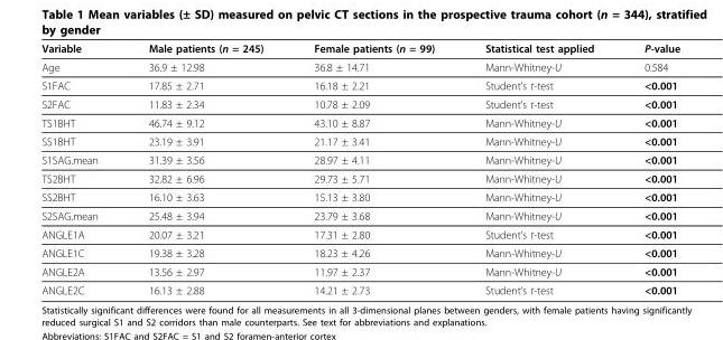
<table><thead><tr><td>Variable</td><td>Male patients (n = 245)</td><td>Female patients (n = 99)</td><td>Statistical test applied</td><td>P-value</td></tr></thead><tbody><tr><td>Age</td><td>36.9 ± 12.98</td><td>36.8 ± 14.71</td><td>Mann-Whitney-U</td><td>0.584</td></tr><tr><td>S1FAC</td><td>17.85 ± 2.71</td><td>16.18 ± 2.21</td><td>Student’s t-test</td><td>&lt;0.001</td></tr><tr><td>S2FAC</td><td>11.83 ± 2.34</td><td>10.78 ± 2.09</td><td>Student’s t-test</td><td>&lt;0.001</td></tr><tr><td>TS1BHT</td><td>46.74 ± 9.12</td><td>43.10 ± 8.87</td><td>Mann-Whitney-U</td><td>&lt;0.001</td></tr><tr><td>SS1BHT</td><td>23.19 ± 3.91</td><td>21.17 ± 3.41</td><td>Mann-Whitney-U</td><td>&lt;0.001</td></tr><tr><td>S1SAG.mean</td><td>31.39 ± 3.56</td><td>28.97 ± 4.11</td><td>Mann-Whitney-U</td><td>&lt;0.001</td></tr><tr><td>TS2BHT</td><td>32.82 ± 6.96</td><td>29.73 ± 5.71</td><td>Mann-Whitney-U</td><td>&lt;0.001</td></tr><tr><td>SS2BHT</td><td>16.10 ± 3.63</td><td>15.13 ± 3.80</td><td>Mann-Whitney-U</td><td>&lt;0.001</td></tr><tr><td>S2SAG.mean</td><td>25.48 ± 3.94</td><td>23.79 ± 3.68</td><td>Mann-Whitney-U</td><td>&lt;0.001</td></tr><tr><td>ANGLE1A</td><td>20.07 ± 3.21</td><td>17.31 ± 2.80</td><td>Student’s t-test</td><td>&lt;0.001</td></tr><tr><td>ANGLE1C</td><td>19.38 ± 3.28</td><td>18.23 ± 4.26</td><td>Mann-Whitney-U</td><td>&lt;0.001</td></tr><tr><td>ANGLE2A</td><td>13.56 ± 2.97</td><td>11.97 ± 2.37</td><td>Mann-Whitney-U</td><td>&lt;0.001</td></tr><tr><td>ANGLE2C</td><td>16.13 ± 2.88</td><td>14.21 ± 2.73</td><td>Student’s t-test</td><td>&lt;0.001</td></tr></tbody></table>